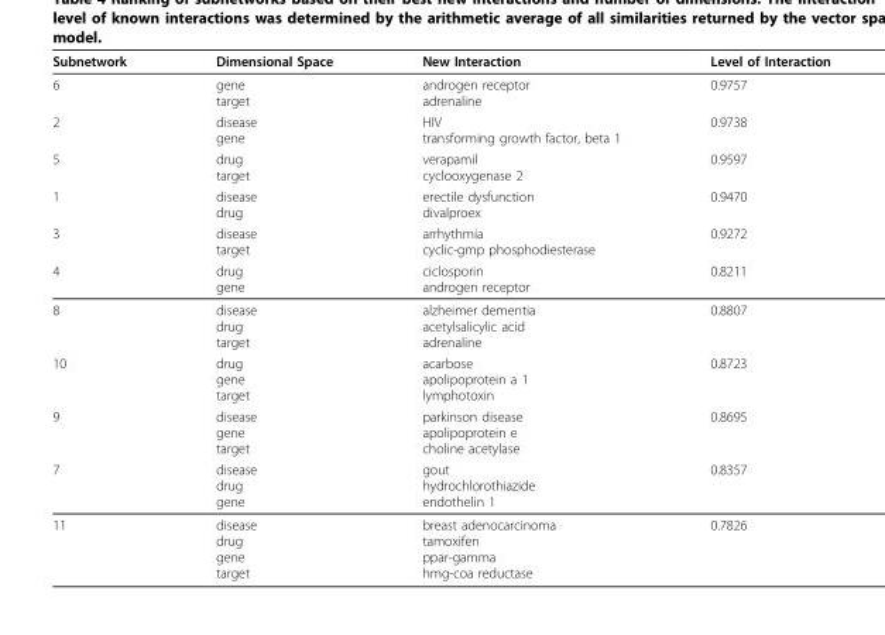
<table><thead><tr><td>Subnetwork</td><td>Dimensional Space</td><td>New Interaction</td><td>Level of Interaction</td></tr></thead><tbody><tr><td>6</td><td>gene target</td><td>androgen receptor adrenaline</td><td>0.9757</td></tr><tr><td>2</td><td>disease gene</td><td>HIV transforming growth factor, beta 1</td><td>0.9738</td></tr><tr><td>5</td><td>drug target</td><td>verapamil cyclooxygenase 2</td><td>0.9597</td></tr><tr><td>1</td><td>disease drug</td><td>erectile dysfunction divalproex</td><td>0.9470</td></tr><tr><td>3</td><td>disease target</td><td>arrhythmia cyclic-gmp phosphodiesterase</td><td>0.9272</td></tr><tr><td>4</td><td>drug gene</td><td>ciclosporin androgen receptor</td><td>0.8211</td></tr><tr><td>8</td><td>disease drug target</td><td>alzheimer dementia acetylsalicylic acid adrenaline</td><td>0.8807</td></tr><tr><td>10</td><td>drug gene target</td><td>acarbose apolipoprotein a 1 lymphotoxin</td><td>0.8723</td></tr><tr><td>9</td><td>disease gene target</td><td>parkinson disease apolipoprotein e choline acetylase</td><td>0.8695</td></tr><tr><td>7</td><td>disease drug gene</td><td>gout hydrochlorothiazide endothelin 1</td><td>0.8357</td></tr><tr><td>11</td><td>disease drug gene target</td><td>breast adenocarcinoma tamoxifen ppar-gamma hmg-coa reductase</td><td>0.7826</td></tr></tbody></table>